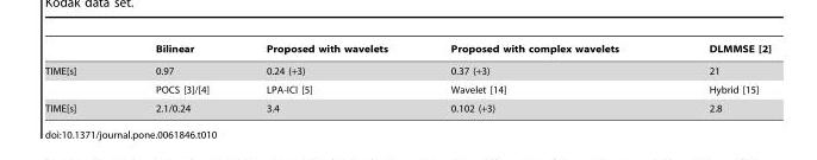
<table><thead><tr><td></td><td>Bilinear</td><td>Proposed with wavelets</td><td>Proposed with complex wavelets</td><td>DLMMSE [2]</td></tr></thead><tbody><tr><td rowspan="2">TIME[s]</td><td>0.97</td><td>0.24 (+3)</td><td>0.37 (+3)</td><td>21</td></tr><tr><td>POCS [3]/[4]</td><td>LPA-ICI [5]</td><td>Wavelet [14]</td><td>Hybrid [15]</td></tr><tr><td>TIME[s]</td><td>2.1/0.24</td><td>3.4</td><td>0.102 (+3)</td><td>2.8</td></tr></tbody></table>